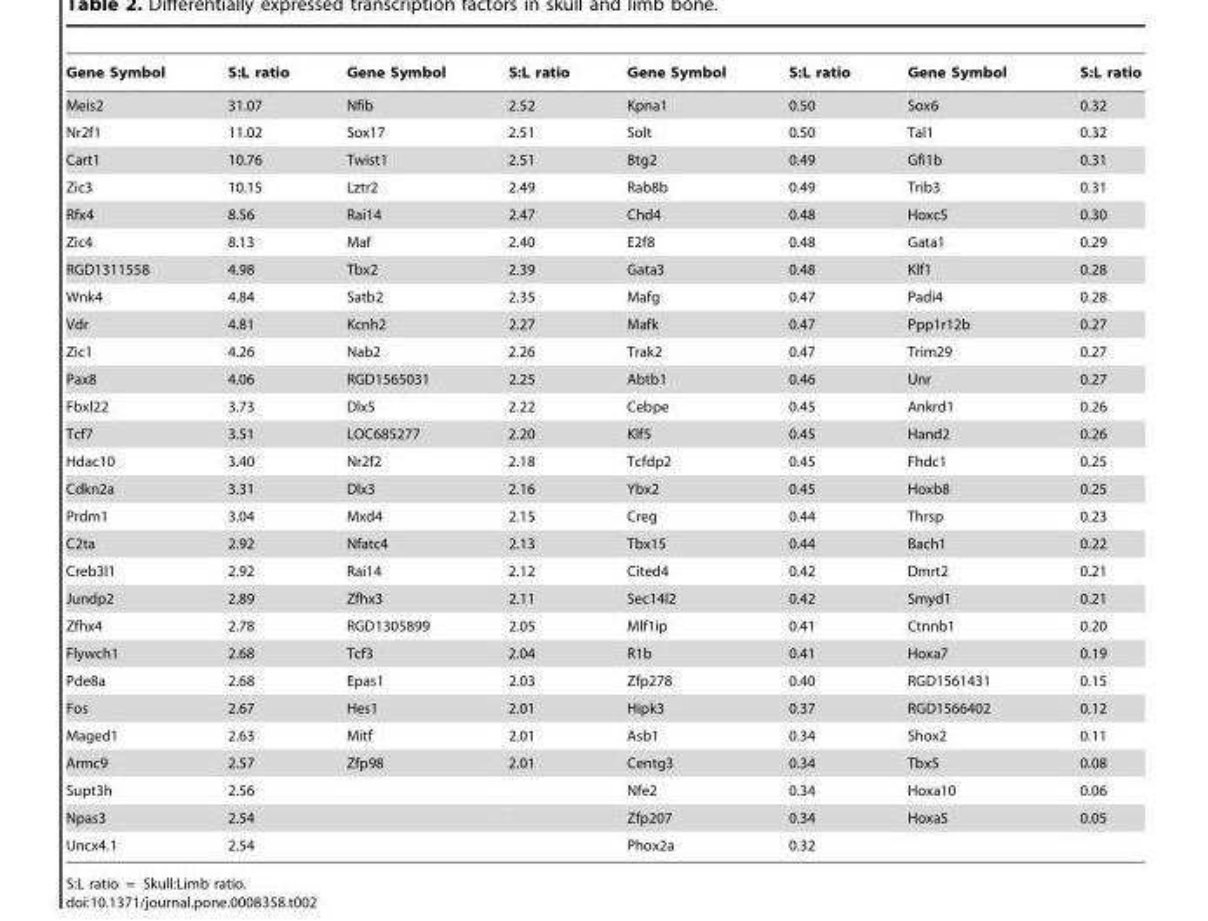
<table><thead><tr><td>Gene Symbol</td><td>S:L ratio</td><td>Gene Symbol</td><td>S:L ratio</td><td>Gene Symbol</td><td>S:L ratio</td><td>Gene Symbol</td><td>S:L ratio</td></tr></thead><tbody><tr><td>Meis2</td><td>31.07</td><td>Nfib</td><td>2.52</td><td>Kpna1</td><td>0.50</td><td>Sox6</td><td>0.32</td></tr><tr><td>Nr2f1</td><td>11.02</td><td>Sox17</td><td>2.51</td><td>Solt</td><td>0.50</td><td>Tal1</td><td>0.32</td></tr><tr><td>Cart1</td><td>10.76</td><td>Twist1</td><td>2.51</td><td>Btg2</td><td>0.49</td><td>Gfi1b</td><td>0.31</td></tr><tr><td>Zic3</td><td>10.15</td><td>Lztr2</td><td>2.49</td><td>Rab8b</td><td>0.49</td><td>Trib3</td><td>0.31</td></tr><tr><td>Rfx4</td><td>8.56</td><td>Rai14</td><td>2.47</td><td>Chd4</td><td>0.48</td><td>Hoxc5</td><td>0.30</td></tr><tr><td>Zic4</td><td>8.13</td><td>Maf</td><td>2.40</td><td>E2f8</td><td>0.48</td><td>Gata1</td><td>0.29</td></tr><tr><td>RGD1311558</td><td>4.98</td><td>Tbx2</td><td>2.39</td><td>Gata3</td><td>0.48</td><td>Klf1</td><td>0.28</td></tr><tr><td>Wnk4</td><td>4.84</td><td>Satb2</td><td>2.35</td><td>Mafg</td><td>0.47</td><td>Padi4</td><td>0.28</td></tr><tr><td>Vdr</td><td>4.81</td><td>Kcnh2</td><td>2.27</td><td>Mafk</td><td>0.47</td><td>Ppp1r12b</td><td>0.27</td></tr><tr><td>Zic1</td><td>4.26</td><td>Nab2</td><td>2.26</td><td>Trak2</td><td>0.47</td><td>Trim29</td><td>0.27</td></tr><tr><td>Pax8</td><td>4.06</td><td>RGD1565031</td><td>2.25</td><td>Abtb1</td><td>0.46</td><td>Unr</td><td>0.27</td></tr><tr><td>Fbxl22</td><td>3.73</td><td>Dlx5</td><td>2.22</td><td>Cebpe</td><td>0.45</td><td>Ankrd1</td><td>0.26</td></tr><tr><td>Tcf7</td><td>3.51</td><td>LOC685277</td><td>2.20</td><td>Klf5</td><td>0.45</td><td>Hand2</td><td>0.26</td></tr><tr><td>Hdac10</td><td>3.40</td><td>Nr2f2</td><td>2.18</td><td>Tcfdp2</td><td>0.45</td><td>Fhdc1</td><td>0.25</td></tr><tr><td>Cdkn2a</td><td>3.31</td><td>Dlx3</td><td>2.16</td><td>Ybx2</td><td>0.45</td><td>Hoxb8</td><td>0.25</td></tr><tr><td>Prdm1</td><td>3.04</td><td>Mxd4</td><td>2.15</td><td>Creg</td><td>0.44</td><td>Thrsp</td><td>0.23</td></tr><tr><td>C2ta</td><td>2.92</td><td>Nfatc4</td><td>2.13</td><td>Tbx15</td><td>0.44</td><td>Bach1</td><td>0.22</td></tr><tr><td>Creb3l1</td><td>2.92</td><td>Rai14</td><td>2.12</td><td>Cited4</td><td>0.42</td><td>Dmrt2</td><td>0.21</td></tr><tr><td>Jundp2</td><td>2.89</td><td>Zfhx3</td><td>2.11</td><td>Sec14l2</td><td>0.42</td><td>Smyd1</td><td>0.21</td></tr><tr><td>Zfhx4</td><td>2.78</td><td>RGD1305899</td><td>2.05</td><td>Mlf1ip</td><td>0.41</td><td>Ctnnb1</td><td>0.20</td></tr><tr><td>Flywch1</td><td>2.68</td><td>Tcf3</td><td>2.04</td><td>R1b</td><td>0.41</td><td>Hoxa7</td><td>0.19</td></tr><tr><td>Pde8a</td><td>2.68</td><td>Epas1</td><td>2.03</td><td>Zfp278</td><td>0.40</td><td>RGD1561431</td><td>0.15</td></tr><tr><td>Fos</td><td>2.67</td><td>Hes1</td><td>2.01</td><td>Hipk3</td><td>0.37</td><td>RGD1566402</td><td>0.12</td></tr><tr><td>Maged1</td><td>2.63</td><td>Mitf</td><td>2.01</td><td>Asb1</td><td>0.34</td><td>Shox2</td><td>0.11</td></tr><tr><td>Armc9</td><td>2.57</td><td>Zfp98</td><td>2.01</td><td>Centg3</td><td>0.34</td><td>Tbx5</td><td>0.08</td></tr><tr><td>Supt3h</td><td>2.56</td><td></td><td></td><td>Nfe2</td><td>0.34</td><td>Hoxa10</td><td>0.06</td></tr><tr><td>Npas3</td><td>2.54</td><td></td><td></td><td>Zfp207</td><td>0.34</td><td>Hoxa5</td><td>0.05</td></tr><tr><td>Uncx4.1</td><td>2.54</td><td></td><td></td><td>Phox2a</td><td>0.32</td><td></td><td></td></tr></tbody></table>